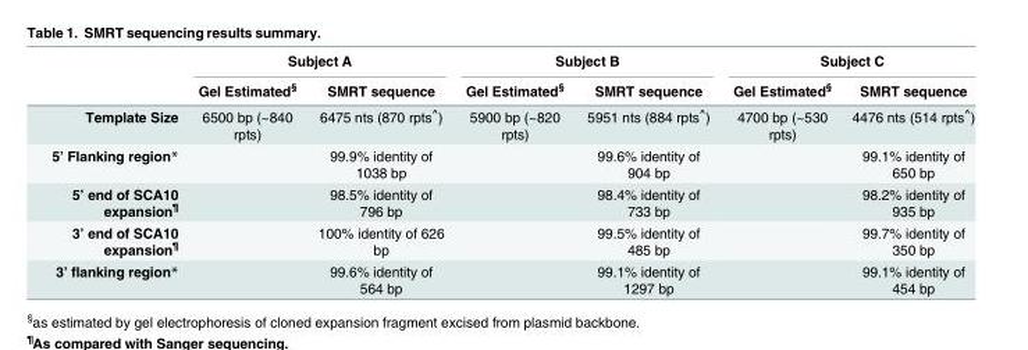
<table><thead><tr><td rowspan="2"></td><td colspan="2">Subject A</td><td colspan="2">Subject B</td><td colspan="2">Subject C</td></tr><tr><td>Gel Estimated<sup>§</sup></td><td>SMRT sequence</td><td>Gel Estimated<sup>§</sup></td><td>SMRT sequence</td><td>Gel Estimated<sup>§</sup></td><td>SMRT sequence</td></tr></thead><tbody><tr><td>Template Size</td><td>6500 bp (~840 rpts)</td><td>6475 nts (870 rpts<sup>^</sup>)</td><td>5900 bp (~820 rpts)</td><td>5951 nts (884 rpts<sup>^</sup>)</td><td>4700 bp (~530 rpts)</td><td>4476 nts (514 rpts<sup>^</sup>)</td></tr><tr><td>5’ Flanking region*</td><td></td><td>99.9% identity of 1038 bp</td><td></td><td>99.6% identity of 904 bp</td><td></td><td>99.1% identity of 650 bp</td></tr><tr><td>5’ end of SCA10 expansion<sup>¶</sup></td><td></td><td>98.5% identity of 796 bp</td><td></td><td>98.4% identity of 733 bp</td><td></td><td>98.2% identity of 935 bp</td></tr><tr><td>3’ end of SCA10 expansion<sup>¶</sup></td><td></td><td>100% identity of 626 bp</td><td></td><td>99.5% identity of 485 bp</td><td></td><td>99.7% identity of 350 bp</td></tr><tr><td>3’ flanking region*</td><td></td><td>99.6% identity of 564 bp</td><td></td><td>99.1% identity of 1297 bp</td><td></td><td>99.1% identity of 454 bp</td></tr></tbody></table>